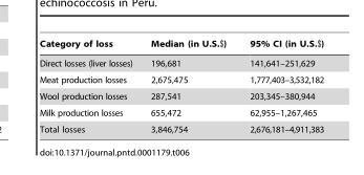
<table><thead><tr><td>Category of loss</td><td>Median (in U.S.$)</td><td>95% CI (in U.S.$)</td></tr></thead><tbody><tr><td>Direct losses (liver losses)</td><td>196,681</td><td>141,641–251,629</td></tr><tr><td>Meat production losses</td><td>2,675,475</td><td>1,777,403–3,532,182</td></tr><tr><td>Wool production losses</td><td>287,541</td><td>203,345–380,944</td></tr><tr><td>Milk production losses</td><td>655,472</td><td>62,955–1,267,465</td></tr><tr><td>Total losses</td><td>3,846,754</td><td>2,676,181–4,911,383</td></tr></tbody></table>